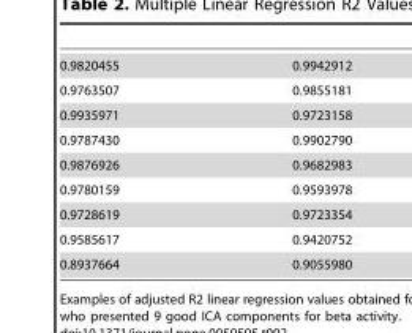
<table><tbody><tr><td>0.9820455</td><td>0.9942912</td></tr><tr><td>0.9763507</td><td>0.9855181</td></tr><tr><td>0.9935971</td><td>0.9723158</td></tr><tr><td>0.9787430</td><td>0.9902790</td></tr><tr><td>0.9876926</td><td>0.9682983</td></tr><tr><td>0.9780159</td><td>0.9593978</td></tr><tr><td>0.9728619</td><td>0.9723354</td></tr><tr><td>0.9585617</td><td>0.9420752</td></tr><tr><td>0.8937664</td><td>0.9055980</td></tr></tbody></table>